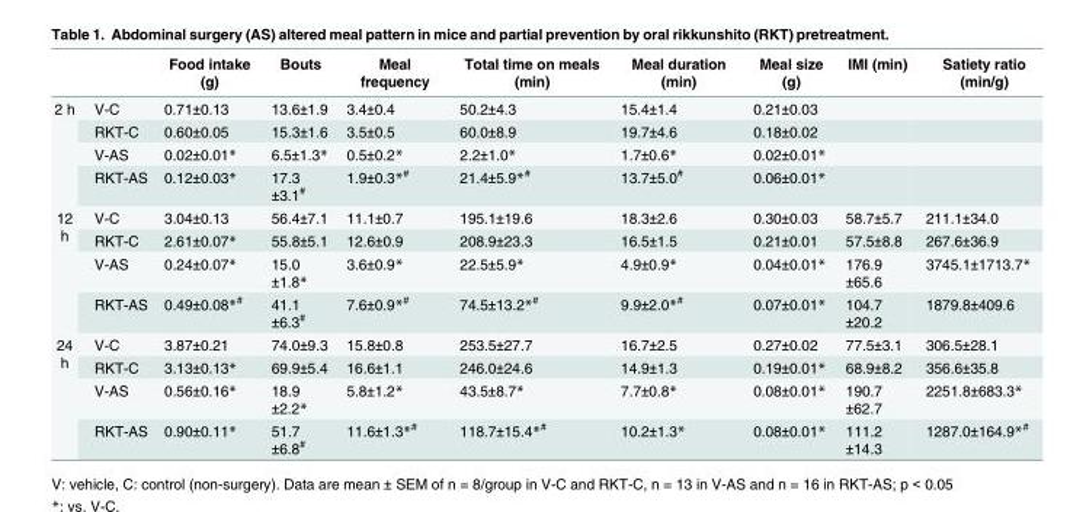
<table><thead><tr><td></td><td></td><td>Food intake (g)</td><td>Bouts</td><td>Meal frequency</td><td>Total time on meals (min)</td><td>Meal duration (min)</td><td>Meal size (g)</td><td>IMI (min)</td><td>Satiety ratio (min/g)</td></tr></thead><tbody><tr><td rowspan="4">2 h</td><td>V-C</td><td>0.71±0.13</td><td>13.6±1.9</td><td>3.4±0.4</td><td>50.2±4.3</td><td>15.4±1.4</td><td>0.21±0.03</td><td></td><td></td></tr><tr><td>RKT-C</td><td>0.60±0.05</td><td>15.3±1.6</td><td>3.5±0.5</td><td>60.0±8.9</td><td>19.7±4.6</td><td>0.18±0.02</td><td></td><td></td></tr><tr><td>V-AS</td><td>0.02±0.01*</td><td>6.5±1.3*</td><td>0.5±0.2*</td><td>2.2±1.0*</td><td>1.7±0.6*</td><td>0.02±0.01*</td><td></td><td></td></tr><tr><td>RKT-AS</td><td>0.12±0.03*</td><td>17.3 ±3.1<sup>#</sup></td><td>1.9±0.3*<sup>#</sup></td><td>21.4±5.9*<sup>#</sup></td><td>13.7±5.0<sup>#</sup></td><td>0.06±0.01*</td><td></td><td></td></tr><tr><td rowspan="4">12 h</td><td>V-C</td><td>3.04±0.13</td><td>56.4±7.1</td><td>11.1±0.7</td><td>195.1±19.6</td><td>18.3±2.6</td><td>0.30±0.03</td><td>58.7±5.7</td><td>211.1±34.0</td></tr><tr><td>RKT-C</td><td>2.61±0.07*</td><td>55.8±5.1</td><td>12.6±0.9</td><td>208.9±23.3</td><td>16.5±1.5</td><td>0.21±0.01</td><td>57.5±8.8</td><td>267.6±36.9</td></tr><tr><td>V-AS</td><td>0.24±0.07*</td><td>15.0 ±1.8*</td><td>3.6±0.9*</td><td>22.5±5.9*</td><td>4.9±0.9*</td><td>0.04±0.01*</td><td>176.9 ±65.6</td><td>3745.1±1713.7*</td></tr><tr><td>RKT-AS</td><td>0.49±0.08*<sup>#</sup></td><td>41.1 ±6.3<sup>#</sup></td><td>7.6±0.9*<sup>#</sup></td><td>74.5±13.2*<sup>#</sup></td><td>9.9±2.0*<sup>#</sup></td><td>0.07±0.01*</td><td>104.7 ±20.2</td><td>1879.8±409.6</td></tr><tr><td rowspan="4">24 h</td><td>V-C</td><td>3.87±0.21</td><td>74.0±9.3</td><td>15.8±0.8</td><td>253.5±27.7</td><td>16.7±2.5</td><td>0.27±0.02</td><td>77.5±3.1</td><td>306.5±28.1</td></tr><tr><td>RKT-C</td><td>3.13±0.13*</td><td>69.9±5.4</td><td>16.6±1.1</td><td>246.0±24.6</td><td>14.9±1.3</td><td>0.19±0.01*</td><td>68.9±8.2</td><td>356.6±35.8</td></tr><tr><td>V-AS</td><td>0.56±0.16*</td><td>18.9 ±2.2*</td><td>5.8±1.2*</td><td>43.5±8.7*</td><td>7.7±0.8*</td><td>0.08±0.01*</td><td>190.7 ±62.7</td><td>2251.8±683.3*</td></tr><tr><td>RKT-AS</td><td>0.90±0.11*</td><td>51.7 ±6.8<sup>#</sup></td><td>11.6±1.3*<sup>#</sup></td><td>118.7±15.4*<sup>#</sup></td><td>10.2±1.3*</td><td>0.08±0.01*</td><td>111.2 ±14.3</td><td>1287.0±164.9*<sup>#</sup></td></tr></tbody></table>